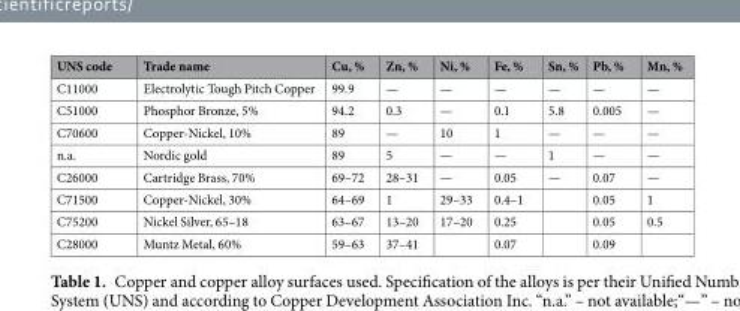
<table><thead><tr><td>UNS code</td><td>Trade name</td><td>Cu, %</td><td>Zn, %</td><td>Ni, %</td><td>Fe, %</td><td>Sn, %</td><td>Pb, %</td><td>Mn, %</td></tr></thead><tbody><tr><td>C11000</td><td>Electrolytic Tough Pitch Copper</td><td>99.9</td><td>—</td><td>—</td><td>—</td><td>—</td><td>—</td><td>—</td></tr><tr><td>C51000</td><td>Phosphor Bronze, 5%</td><td>94.2</td><td>0.3</td><td>—</td><td>0.1</td><td>5.8</td><td>0.005</td><td>—</td></tr><tr><td>C70600</td><td>Copper-Nickel, 10%</td><td>89</td><td>—</td><td>10</td><td>1</td><td>—</td><td>—</td><td>—</td></tr><tr><td>n.a.</td><td>Nordic gold</td><td>89</td><td>5</td><td>—</td><td>—</td><td>1</td><td>—</td><td>—</td></tr><tr><td>C26000</td><td>Cartridge Brass, 70%</td><td>69–72</td><td>28–31</td><td>—</td><td>0.05</td><td>—</td><td>0.07</td><td>—</td></tr><tr><td>C71500</td><td>Copper-Nickel, 30%</td><td>64–69</td><td>1</td><td>29–33</td><td>0.4–1</td><td></td><td>0.05</td><td>1</td></tr><tr><td>C75200</td><td>Nickel Silver, 65–18</td><td>63–67</td><td>13–20</td><td>17–20</td><td>0.25</td><td></td><td>0.05</td><td>0.5</td></tr><tr><td>C28000</td><td>Muntz Metal, 60%</td><td>59–63</td><td>37–41</td><td></td><td>0.07</td><td></td><td>0.09</td><td></td></tr></tbody></table>